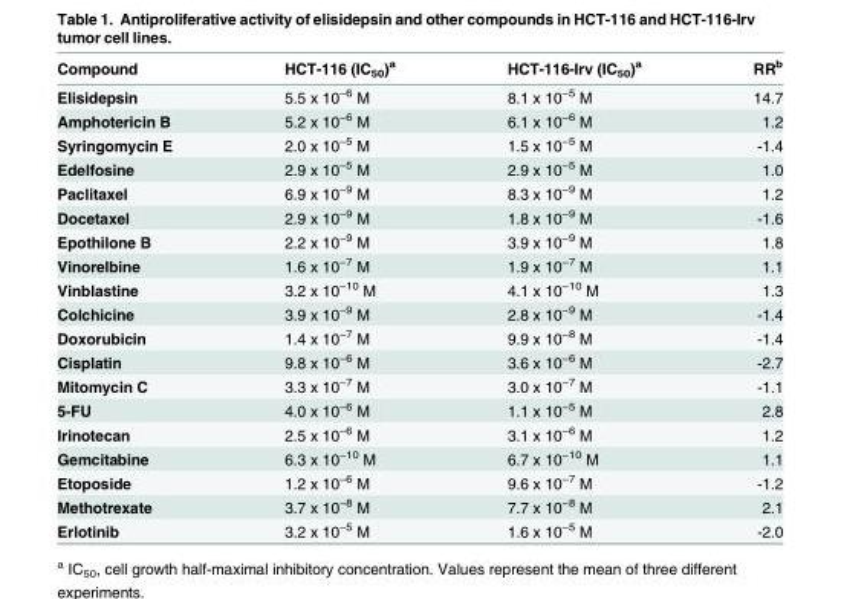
<table><thead><tr><td>Compound</td><td>HCT-116 (IC<sub>50</sub>)<sup>a</sup></td><td>HCT-116-Irv (IC<sub>50</sub>)<sup>a</sup></td><td>RR<sup>b</sup></td></tr></thead><tbody><tr><td>Elisidepsin</td><td>5.5 x 10<sup>−6</sup> M</td><td>8.1 x 10<sup>−5</sup> M</td><td>14.7</td></tr><tr><td>Amphotericin B</td><td>5.2 x 10<sup>−6</sup> M</td><td>6.1 x 10<sup>−6</sup> M</td><td>1.2</td></tr><tr><td>Syringomycin E</td><td>2.0 x 10<sup>−5</sup> M</td><td>1.5 x 10<sup>−5</sup> M</td><td>-1.4</td></tr><tr><td>Edelfosine</td><td>2.9 x 10<sup>−5</sup> M</td><td>2.9 x 10<sup>−5</sup> M</td><td>1.0</td></tr><tr><td>Paclitaxel</td><td>6.9 x 10<sup>−9</sup> M</td><td>8.3 x 10<sup>−9</sup> M</td><td>1.2</td></tr><tr><td>Docetaxel</td><td>2.9 x 10<sup>−9</sup> M</td><td>1.8 x 10<sup>−9</sup> M</td><td>-1.6</td></tr><tr><td>Epothilone B</td><td>2.2 x 10<sup>−9</sup> M</td><td>3.9 x 10<sup>−9</sup> M</td><td>1.8</td></tr><tr><td>Vinorelbine</td><td>1.6 x 10<sup>−7</sup> M</td><td>1.9 x 10<sup>−7</sup> M</td><td>1.1</td></tr><tr><td>Vinblastine</td><td>3.2 x 10<sup>−10</sup> M</td><td>4.1 x 10<sup>−10</sup> M</td><td>1.3</td></tr><tr><td>Colchicine</td><td>3.9 x 10<sup>−9</sup> M</td><td>2.8 x 10<sup>−9</sup> M</td><td>-1.4</td></tr><tr><td>Doxorubicin</td><td>1.4 x 10<sup>−7</sup> M</td><td>9.9 x 10<sup>−8</sup> M</td><td>-1.4</td></tr><tr><td>Cisplatin</td><td>9.8 x 10<sup>−6</sup> M</td><td>3.6 x 10<sup>−6</sup> M</td><td>-2.7</td></tr><tr><td>Mitomycin C</td><td>3.3 x 10<sup>−7</sup> M</td><td>3.0 x 10<sup>−7</sup> M</td><td>-1.1</td></tr><tr><td>5-FU</td><td>4.0 x 10<sup>−6</sup> M</td><td>1.1 x 10<sup>−5</sup> M</td><td>2.8</td></tr><tr><td>Irinotecan</td><td>2.5 x 10<sup>−6</sup> M</td><td>3.1 x 10<sup>−6</sup> M</td><td>1.2</td></tr><tr><td>Gemcitabine</td><td>6.3 x 10<sup>−10</sup> M</td><td>6.7 x 10<sup>−10</sup> M</td><td>1.1</td></tr><tr><td>Etoposide</td><td>1.2 x 10<sup>−6</sup> M</td><td>9.6 x 10<sup>−7</sup> M</td><td>-1.2</td></tr><tr><td>Methotrexate</td><td>3.7 x 10<sup>−8</sup> M</td><td>7.7 x 10<sup>−8</sup> M</td><td>2.1</td></tr><tr><td>Erlotinib</td><td>3.2 x 10<sup>−5</sup> M</td><td>1.6 x 10<sup>−5</sup> M</td><td>-2.0</td></tr></tbody></table>